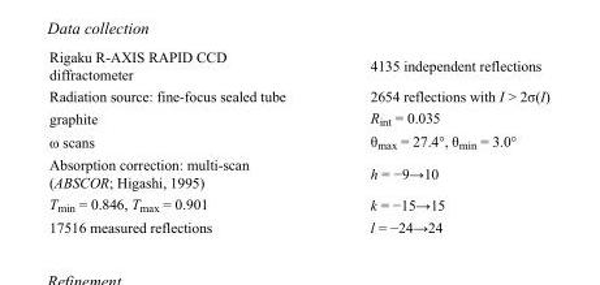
<table><tbody><tr><td>Rigaku R-AXIS RAPID CCD diffractometer</td><td>4135 independent reflections</td></tr><tr><td>Radiation source: fine-focus sealed tube</td><td>2654 reflections with I &gt; 2σ(I)</td></tr><tr><td>graphite</td><td>R<sub>int</sub> = 0.035</td></tr><tr><td>ω scans</td><td>θ<sub>max</sub> = 27.4°, θ<sub>min</sub> = 3.0°</td></tr><tr><td>Absorption correction: multi-scan (ABSCOR; Higashi, 1995)</td><td>h = −9→10</td></tr><tr><td>T<sub>min</sub> = 0.846, T<sub>max</sub> = 0.901</td><td>k = −15→15</td></tr><tr><td>17516 measured reflections</td><td>l = −24→24</td></tr></tbody></table>